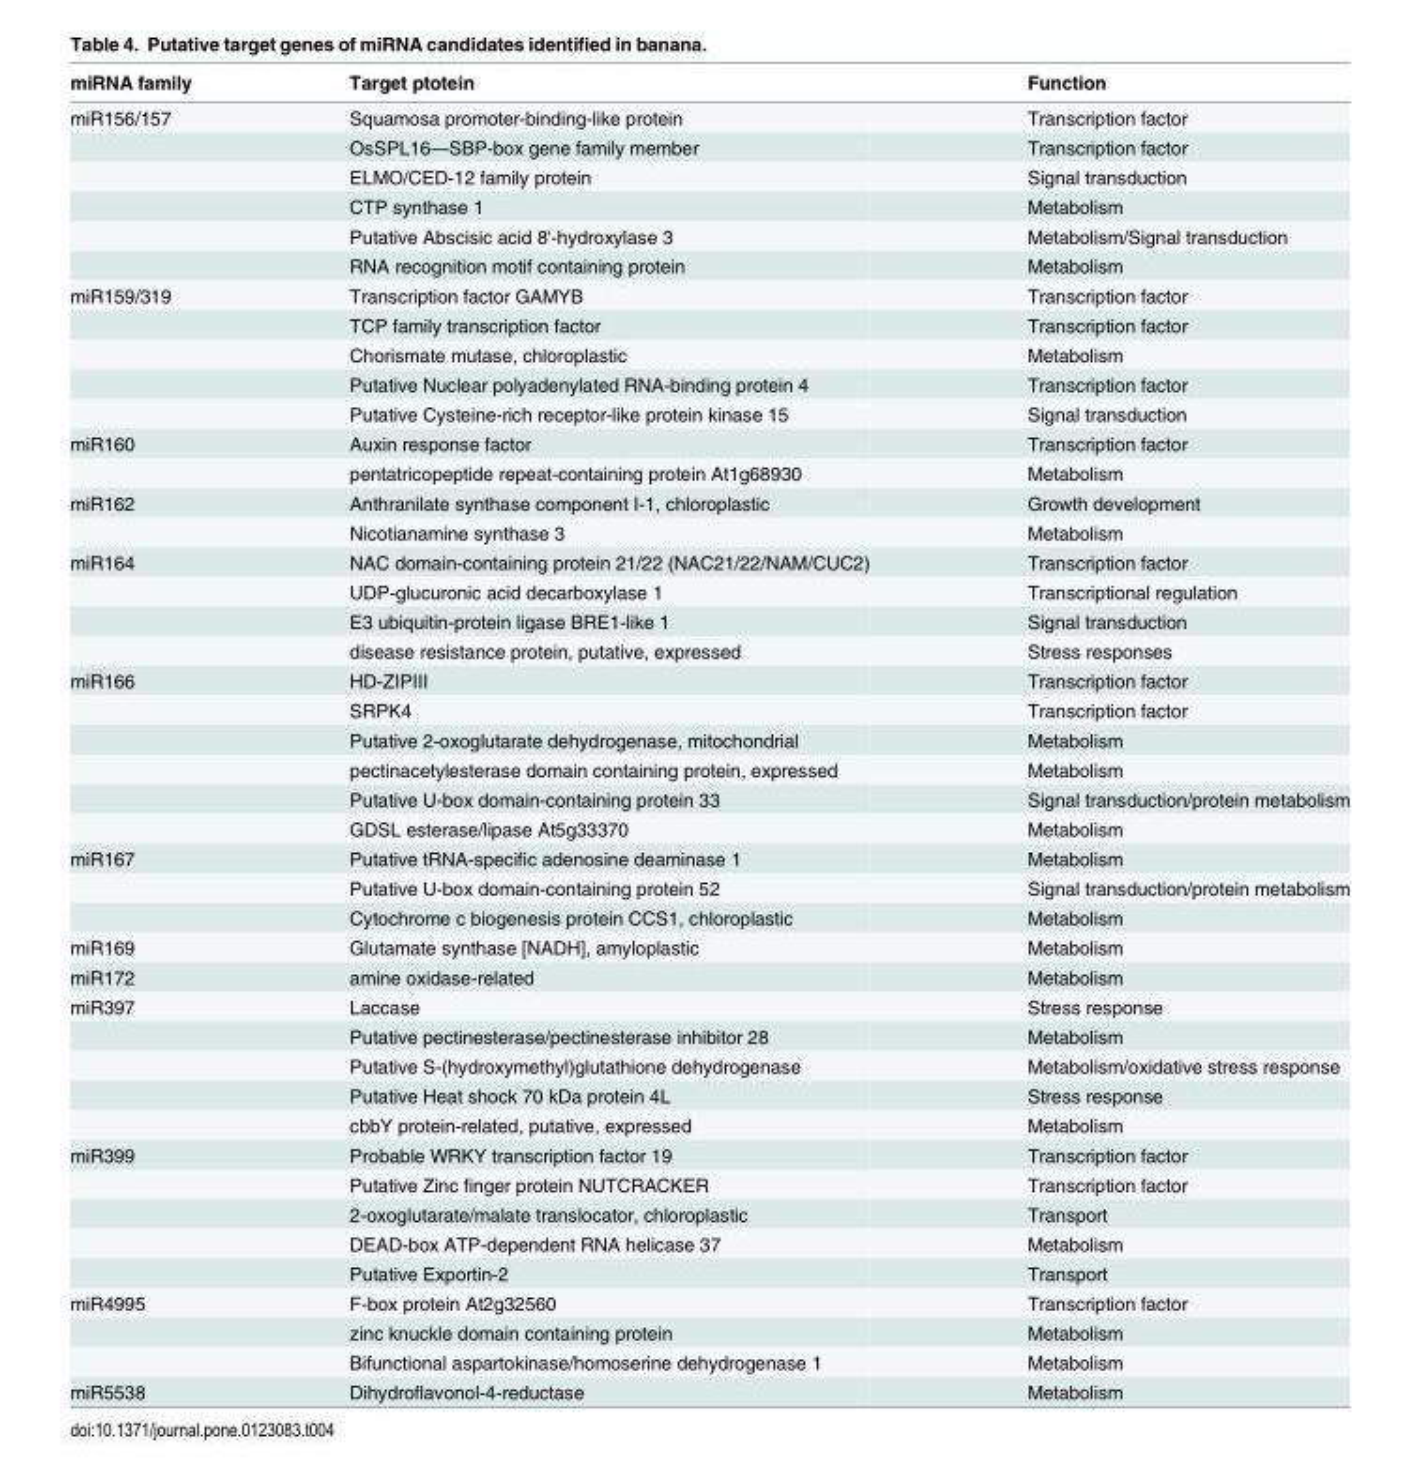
<table><thead><tr><td>miRNA family</td><td>Target ptotein</td><td>Function</td></tr></thead><tbody><tr><td rowspan="6">miR156/157</td><td>Squamosa promoter-binding-like protein</td><td>Transcription factor</td></tr><tr><td>OsSPL16—SBP-box gene family member</td><td>Transcription factor</td></tr><tr><td>ELMO/CED-12 family protein</td><td>Signal transduction</td></tr><tr><td>CTP synthase 1</td><td>Metabolism</td></tr><tr><td>Putative Abscisic acid 8&#x27;-hydroxylase 3</td><td>Metabolism/Signal transduction</td></tr><tr><td>RNA recognition motif containing protein</td><td>Metabolism</td></tr><tr><td rowspan="5">miR159/319</td><td>Transcription factor GAMYB</td><td>Transcription factor</td></tr><tr><td>TCP family transcription factor</td><td>Transcription factor</td></tr><tr><td>Chorismate mutase, chloroplastic</td><td>Metabolism</td></tr><tr><td>Putative Nuclear polyadenylated RNA-binding protein 4</td><td>Transcription factor</td></tr><tr><td>Putative Cysteine-rich receptor-like protein kinase 15</td><td>Signal transduction</td></tr><tr><td rowspan="2">miR160</td><td>Auxin response factor</td><td>Transcription factor</td></tr><tr><td>pentatricopeptide repeat-containing protein At1g68930</td><td>Metabolism</td></tr><tr><td rowspan="2">miR162</td><td>Anthranilate synthase component I-1, chloroplastic</td><td>Growth development</td></tr><tr><td>Nicotianamine synthase 3</td><td>Metabolism</td></tr><tr><td rowspan="4">miR164</td><td>NAC domain-containing protein 21/22 (NAC21/22/NAM/CUC2)</td><td>Transcription factor</td></tr><tr><td>UDP-glucuronic acid decarboxylase 1</td><td>Transcriptional regulation</td></tr><tr><td>E3 ubiquitin-protein ligase BRE1-like 1</td><td>Signal transduction</td></tr><tr><td>disease resistance protein, putative, expressed</td><td>Stress responses</td></tr><tr><td rowspan="6">miR166</td><td>HD-ZIPⅢ</td><td>Transcription factor</td></tr><tr><td>SRPK4</td><td>Transcription factor</td></tr><tr><td>Putative 2-oxoglutarate dehydrogenase, mitochondrial</td><td>Metabolism</td></tr><tr><td>pectinacetylesterase domain containing protein, expressed</td><td>Metabolism</td></tr><tr><td>Putative U-box domain-containing protein 33</td><td>Signal transduction/protein metabolism</td></tr><tr><td>GDSL esterase/lipase At5g33370</td><td>Metabolism</td></tr><tr><td rowspan="3">miR167</td><td>Putative tRNA-specific adenosine deaminase 1</td><td>Metabolism</td></tr><tr><td>Putative U-box domain-containing protein 52</td><td>Signal transduction/protein metabolism</td></tr><tr><td>Cytochrome c biogenesis protein CCS1, chloroplastic</td><td>Metabolism</td></tr><tr><td>miR169</td><td>Glutamate synthase [NADH], amyloplastic</td><td>Metabolism</td></tr><tr><td>miR172</td><td>amine oxidase-related</td><td>Metabolism</td></tr><tr><td rowspan="5">miR397</td><td>Laccase</td><td>Stress response</td></tr><tr><td>Putative pectinesterase/pectinesterase inhibitor 28</td><td>Metabolism</td></tr><tr><td>Putative S-(hydroxymethyl)glutathione dehydrogenase</td><td>Metabolism/oxidative stress response</td></tr><tr><td>Putative Heat shock 70 kDa protein 4L</td><td>Stress response</td></tr><tr><td>cbbY protein-related, putative, expressed</td><td>Metabolism</td></tr><tr><td rowspan="5">miR399</td><td>Probable WRKY transcription factor 19</td><td>Transcription factor</td></tr><tr><td>Putative Zinc finger protein NUTCRACKER</td><td>Transcription factor</td></tr><tr><td>2-oxoglutarate/malate translocator, chloroplastic</td><td>Transport</td></tr><tr><td>DEAD-box ATP-dependent RNA helicase 37</td><td>Metabolism</td></tr><tr><td>Putative Exportin-2</td><td>Transport</td></tr><tr><td rowspan="3">miR4995</td><td>F-box protein At2g32560</td><td>Transcription factor</td></tr><tr><td>zinc knuckle domain containing protein</td><td>Metabolism</td></tr><tr><td>Bifunctional aspartokinase/homoserine dehydrogenase 1</td><td>Metabolism</td></tr><tr><td>miR5538</td><td>Dihydroflavonol-4-reductase</td><td>Metabolism</td></tr></tbody></table>